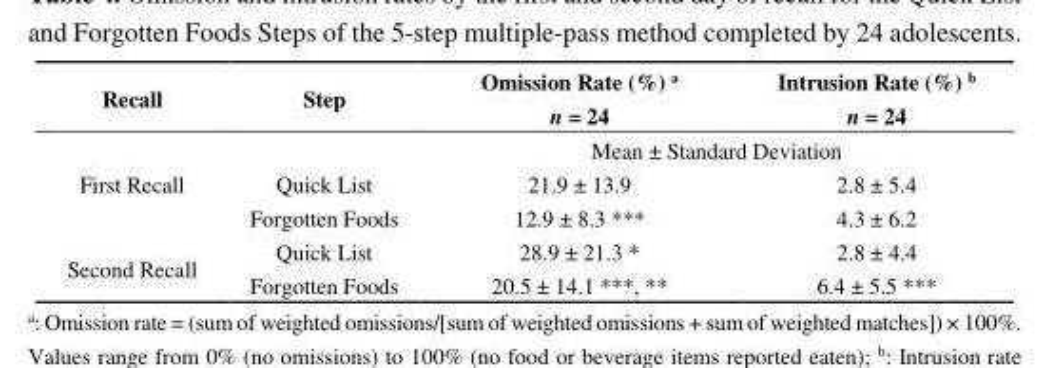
<table><thead><tr><td>Recall</td><td>Step</td><td>Omission Rate (%) <sup>a</sup> n = 24</td><td>Intrusion Rate (%) <sup>b</sup> n = 24</td></tr></thead><tbody><tr><td rowspan="3">First Recall</td><td></td><td colspan="2">Mean ± Standard Deviation</td></tr><tr><td>Quick List</td><td>21.9 ± 13.9</td><td>2.8 ± 5.4</td></tr><tr><td>Forgotten Foods</td><td>12.9 ± 8.3 ***</td><td>4.3 ± 6.2</td></tr><tr><td rowspan="2">Second Recall</td><td>Quick List</td><td>28.9 ± 21.3 *</td><td>2.8 ± 4.4</td></tr><tr><td>Forgotten Foods</td><td>20.5 ± 14.1 ***, **</td><td>6.4 ± 5.5 ***</td></tr></tbody></table>